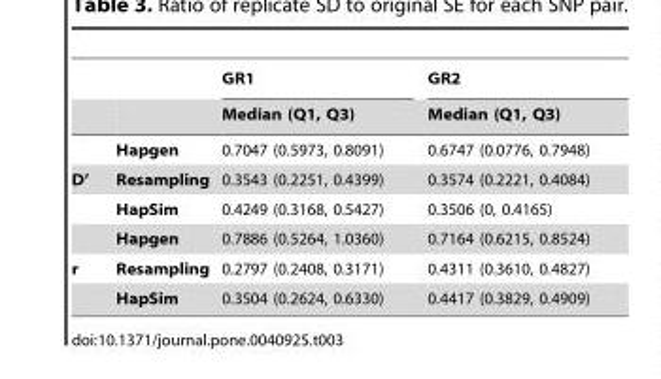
<table><thead><tr><td rowspan="2"></td><td rowspan="2"></td><td rowspan="2">GR1 Median (Q1, Q3)</td><td rowspan="2">GR2 Median (Q1, Q3)</td></tr><tr></tr></thead><tbody><tr><td></td><td>Hapgen</td><td>0.7047 (0.5973, 0.8091)</td><td>0.6747 (0.0776, 0.7948)</td></tr><tr><td rowspan="3">D’</td><td>Resampling</td><td>0.3543 (0.2251, 0.4399)</td><td>0.3574 (0.2221, 0.4084)</td></tr><tr><td>HapSim</td><td>0.4249 (0.3168, 0.5427)</td><td>0.3506 (0, 0.4165)</td></tr><tr><td>Hapgen</td><td>0.7886 (0.5264, 1.0360)</td><td>0.7164 (0.6215, 0.8524)</td></tr><tr><td rowspan="2">r</td><td>Resampling</td><td>0.2797 (0.2408, 0.3171)</td><td>0.4311 (0.3610, 0.4827)</td></tr><tr><td>HapSim</td><td>0.3504 (0.2624, 0.6330)</td><td>0.4417 (0.3829, 0.4909)</td></tr></tbody></table>